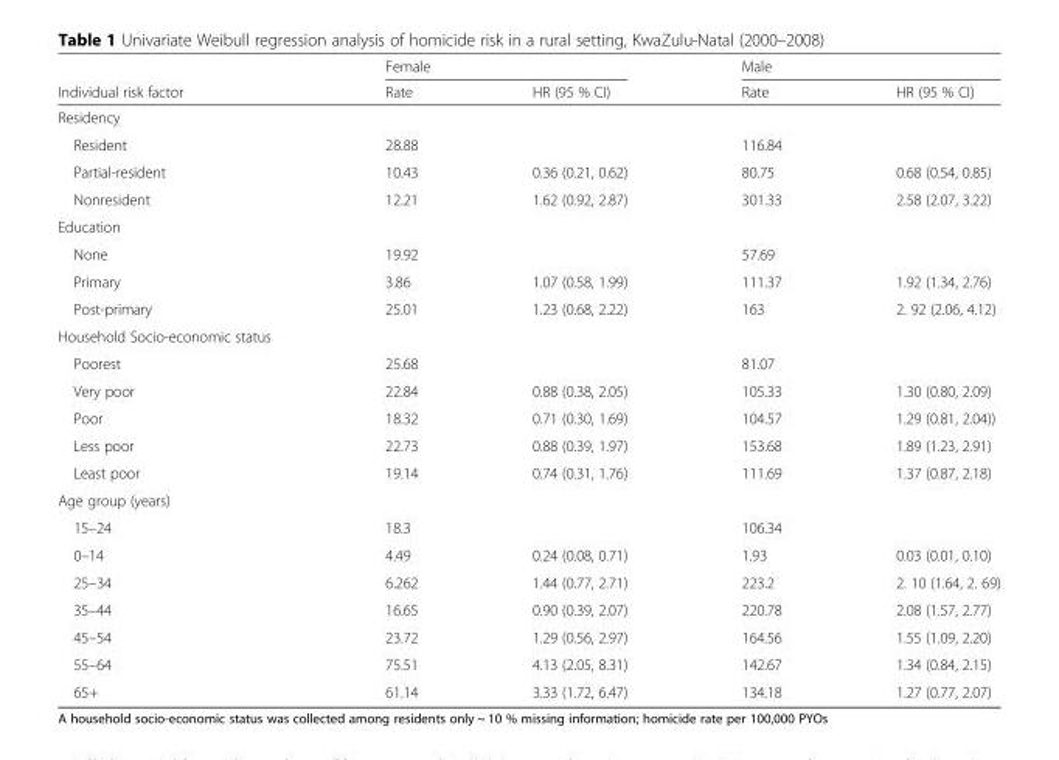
<table><thead><tr><td rowspan="2">Individual risk factor</td><td colspan="2">Female</td><td colspan="2">Male</td></tr><tr><td>Rate</td><td>HR (95 % CI)</td><td>Rate</td><td>HR (95 % CI)</td></tr></thead><tbody><tr><td colspan="5">Residency</td></tr><tr><td>Resident</td><td>28.88</td><td></td><td>116.84</td><td></td></tr><tr><td>Partial-resident</td><td>10.43</td><td>0.36 (0.21, 0.62)</td><td>80.75</td><td>0.68 (0.54, 0.85)</td></tr><tr><td>Nonresident</td><td>12.21</td><td>1.62 (0.92, 2.87)</td><td>301.33</td><td>2.58 (2.07, 3.22)</td></tr><tr><td colspan="5">Education</td></tr><tr><td>None</td><td>19.92</td><td></td><td>57.69</td><td></td></tr><tr><td>Primary</td><td>3.86</td><td>1.07 (0.58, 1.99)</td><td>111.37</td><td>1.92 (1.34, 2.76)</td></tr><tr><td>Post-primary</td><td>25.01</td><td>1.23 (0.68, 2.22)</td><td>163</td><td>2. 92 (2.06, 4.12)</td></tr><tr><td colspan="5">Household Socio-economic status</td></tr><tr><td>Poorest</td><td>25.68</td><td></td><td>81.07</td><td></td></tr><tr><td>Very poor</td><td>22.84</td><td>0.88 (0.38, 2.05)</td><td>105.33</td><td>1.30 (0.80, 2.09)</td></tr><tr><td>Poor</td><td>18.32</td><td>0.71 (0.30, 1.69)</td><td>104.57</td><td>1.29 (0.81, 2.04))</td></tr><tr><td>Less poor</td><td>22.73</td><td>0.88 (0.39, 1.97)</td><td>153.68</td><td>1.89 (1.23, 2.91)</td></tr><tr><td>Least poor</td><td>19.14</td><td>0.74 (0.31, 1.76)</td><td>111.69</td><td>1.37 (0.87, 2.18)</td></tr><tr><td colspan="5">Age group (years)</td></tr><tr><td>15–24</td><td>18.3</td><td></td><td>106.34</td><td></td></tr><tr><td>0–14</td><td>4.49</td><td>0.24 (0.08, 0.71)</td><td>1.93</td><td>0.03 (0.01, 0.10)</td></tr><tr><td>25–34</td><td>6.262</td><td>1.44 (0.77, 2.71)</td><td>223.2</td><td>2. 10 (1.64, 2. 69)</td></tr><tr><td>35–44</td><td>16.65</td><td>0.90 (0.39, 2.07)</td><td>220.78</td><td>2.08 (1.57, 2.77)</td></tr><tr><td>45–54</td><td>23.72</td><td>1.29 (0.56, 2.97)</td><td>164.56</td><td>1.55 (1.09, 2.20)</td></tr><tr><td>55–64</td><td>75.51</td><td>4.13 (2.05, 8.31)</td><td>142.67</td><td>1.34 (0.84, 2.15)</td></tr><tr><td>65+</td><td>61.14</td><td>3.33 (1.72, 6.47)</td><td>134.18</td><td>1.27 (0.77, 2.07)</td></tr></tbody></table>